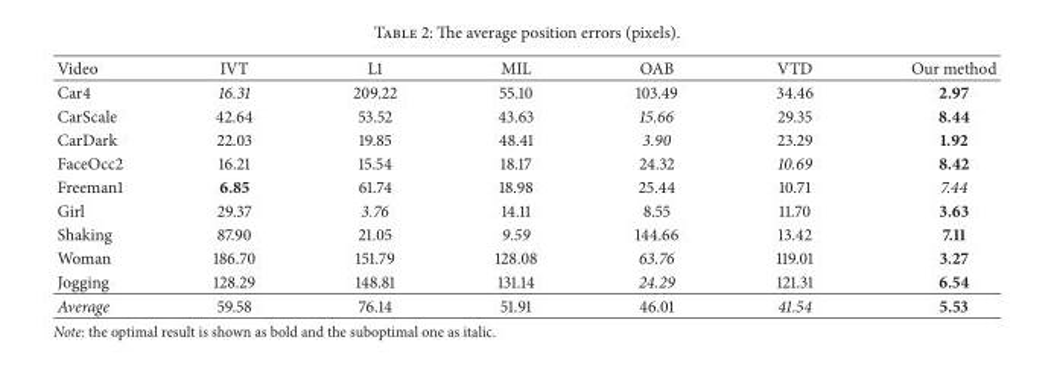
<table><thead><tr><td>Video</td><td>IVT</td><td>L1</td><td>MIL</td><td>OAB</td><td>VTD</td><td>Our method</td></tr></thead><tbody><tr><td>Car4</td><td>16.31</td><td>209.22</td><td>55.10</td><td>103.49</td><td>34.46</td><td>2.97</td></tr><tr><td>CarScale</td><td>42.64</td><td>53.52</td><td>43.63</td><td>15.66</td><td>29.35</td><td>8.44</td></tr><tr><td>CarDark</td><td>22.03</td><td>19.85</td><td>48.41</td><td>3.90</td><td>23.29</td><td>1.92</td></tr><tr><td>FaceOcc2</td><td>16.21</td><td>15.54</td><td>18.17</td><td>24.32</td><td>10.69</td><td>8.42</td></tr><tr><td>Freeman1</td><td>6.85</td><td>61.74</td><td>18.98</td><td>25.44</td><td>10.71</td><td>7.44</td></tr><tr><td>Girl</td><td>29.37</td><td>3.76</td><td>14.11</td><td>8.55</td><td>11.70</td><td>3.63</td></tr><tr><td>Shaking</td><td>87.90</td><td>21.05</td><td>9.59</td><td>144.66</td><td>13.42</td><td>7.11</td></tr><tr><td>Woman</td><td>186.70</td><td>151.79</td><td>128.08</td><td>63.76</td><td>119.01</td><td>3.27</td></tr><tr><td>Jogging</td><td>128.29</td><td>148.81</td><td>131.14</td><td>24.29</td><td>121.31</td><td>6.54</td></tr><tr><td>Average</td><td>59.58</td><td>76.14</td><td>51.91</td><td>46.01</td><td>41.54</td><td>5.53</td></tr></tbody></table>